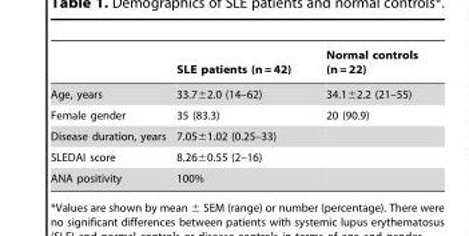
<table><thead><tr><td></td><td>SLE patients (n = 42)</td><td>Normal controls (n = 22)</td></tr></thead><tbody><tr><td>Age, years</td><td>33.7±2.0 (14–62)</td><td>34.1±2.2 (21–55)</td></tr><tr><td>Female gender</td><td>35 (83.3)</td><td>20 (90.9)</td></tr><tr><td>Disease duration, years</td><td>7.05±1.02 (0.25–33)</td><td></td></tr><tr><td>SLEDAI score</td><td>8.26±0.55 (2–16)</td><td></td></tr><tr><td>ANA positivity</td><td>100%</td><td></td></tr></tbody></table>